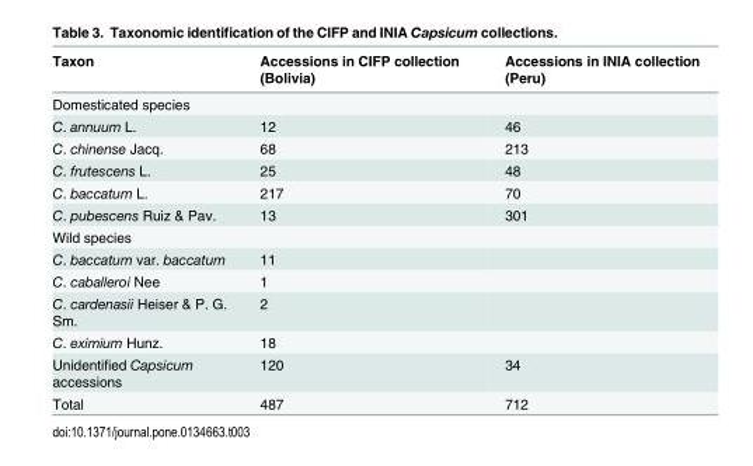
<table><thead><tr><td>Taxon</td><td>Accessions in CIFP collection (Bolivia)</td><td>Accessions in INIA collection (Peru)</td></tr></thead><tbody><tr><td colspan="3">Domesticated species</td></tr><tr><td>C. annuum L.</td><td>12</td><td>46</td></tr><tr><td>C. chinense Jacq.</td><td>68</td><td>213</td></tr><tr><td>C. frutescens L.</td><td>25</td><td>48</td></tr><tr><td>C. baccatum L.</td><td>217</td><td>70</td></tr><tr><td>C. pubescens Ruiz &amp; Pav.</td><td>13</td><td>301</td></tr><tr><td colspan="3">Wild species</td></tr><tr><td>C. baccatum var. baccatum</td><td>11</td><td></td></tr><tr><td>C. caballeroi Nee</td><td>1</td><td></td></tr><tr><td>C. cardenasii Heiser &amp; P. G. Sm.</td><td>2</td><td></td></tr><tr><td>C. eximium Hunz.</td><td>18</td><td></td></tr><tr><td>Unidentified Capsicum accessions</td><td>120</td><td>34</td></tr><tr><td>Total</td><td>487</td><td>712</td></tr></tbody></table>